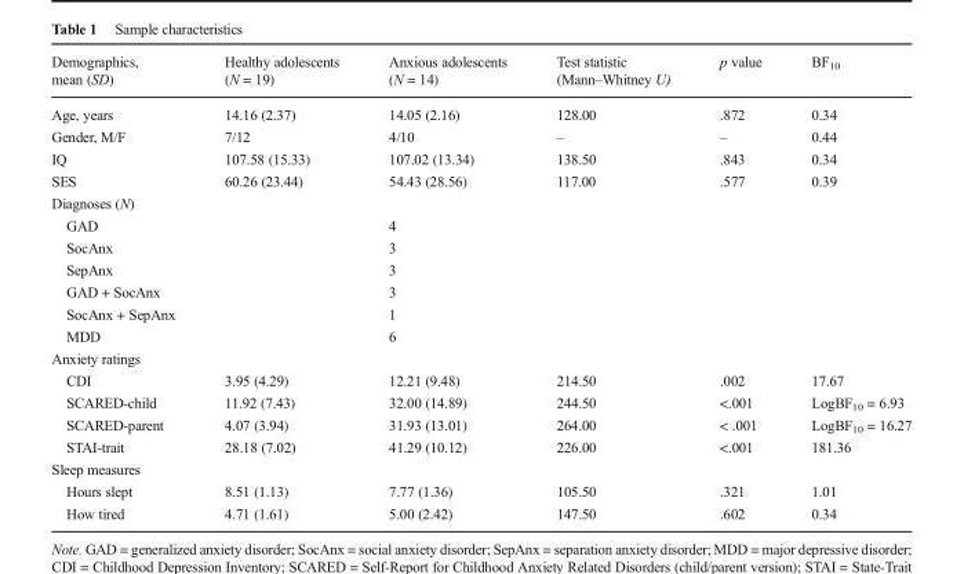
<table><thead><tr><td>Demographics, mean (SD)</td><td>Healthy adolescents (N = 19)</td><td>Anxious adolescents (N = 14)</td><td>Test statistic (Mann–Whitney U)</td><td>p value</td><td>BF<sub>10</sub></td></tr></thead><tbody><tr><td>Age, years</td><td>14.16 (2.37)</td><td>14.05 (2.16)</td><td>128.00</td><td>.872</td><td>0.34</td></tr><tr><td>Gender, M/F</td><td>7/12</td><td>4/10</td><td>–</td><td>–</td><td>0.44</td></tr><tr><td>IQ</td><td>107.58 (15.33)</td><td>107.02 (13.34)</td><td>138.50</td><td>.843</td><td>0.34</td></tr><tr><td>SES</td><td>60.26 (23.44)</td><td>54.43 (28.56)</td><td>117.00</td><td>.577</td><td>0.39</td></tr><tr><td colspan="6">Diagnoses (N)</td></tr><tr><td>GAD</td><td></td><td>4</td><td></td><td></td><td></td></tr><tr><td>SocAnx</td><td></td><td>3</td><td></td><td></td><td></td></tr><tr><td>SepAnx</td><td></td><td>3</td><td></td><td></td><td></td></tr><tr><td>GAD + SocAnx</td><td></td><td>3</td><td></td><td></td><td></td></tr><tr><td>SocAnx + SepAnx</td><td></td><td>1</td><td></td><td></td><td></td></tr><tr><td>MDD</td><td></td><td>6</td><td></td><td></td><td></td></tr><tr><td colspan="6">Anxiety ratings</td></tr><tr><td>CDI</td><td>3.95 (4.29)</td><td>12.21 (9.48)</td><td>214.50</td><td>.002</td><td>17.67</td></tr><tr><td>SCARED-child</td><td>11.92 (7.43)</td><td>32.00 (14.89)</td><td>244.50</td><td>&lt;.001</td><td>LogBF<sub>10</sub> = 6.93</td></tr><tr><td>SCARED-parent</td><td>4.07 (3.94)</td><td>31.93 (13.01)</td><td>264.00</td><td>&lt; .001</td><td>LogBF<sub>10</sub> = 16.27</td></tr><tr><td>STAI-trait</td><td>28.18 (7.02)</td><td>41.29 (10.12)</td><td>226.00</td><td>&lt;.001</td><td>181.36</td></tr><tr><td colspan="6">Sleep measures</td></tr><tr><td>Hours slept</td><td>8.51 (1.13)</td><td>7.77 (1.36)</td><td>105.50</td><td>.321</td><td>1.01</td></tr><tr><td>How tired</td><td>4.71 (1.61)</td><td>5.00 (2.42)</td><td>147.50</td><td>.602</td><td>0.34</td></tr></tbody></table>